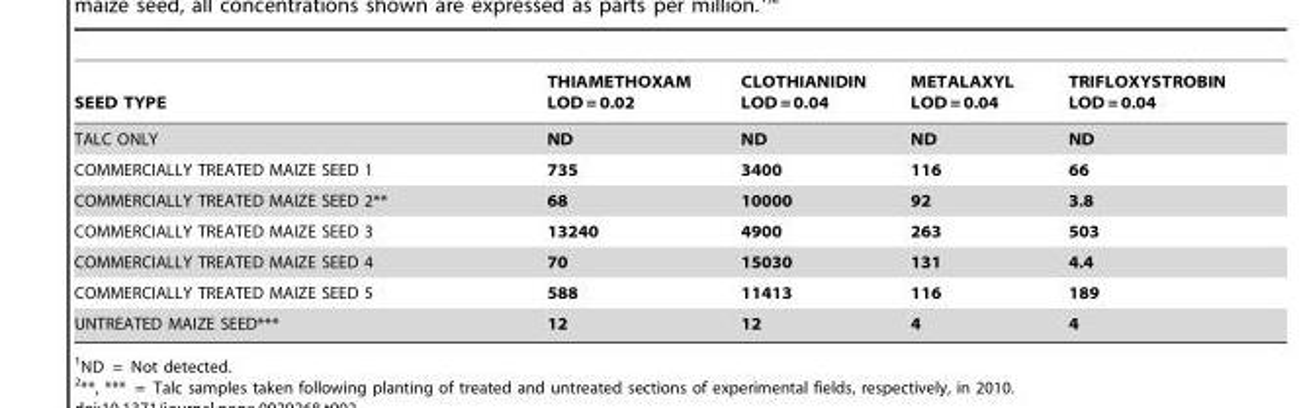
<table><thead><tr><td>SEED TYPE</td><td>THIAMETHOXAM LOD = 0.02</td><td>CLOTHIANIDIN LOD = 0.04</td><td>METALAXYL LOD = 0.04</td><td>TRIFLOXYSTROBIN LOD = 0.04</td></tr></thead><tbody><tr><td>TALC ONLY</td><td>ND</td><td>ND</td><td>ND</td><td>ND</td></tr><tr><td>COMMERCIALLY TREATED MAIZE SEED 1</td><td>735</td><td>3400</td><td>116</td><td>66</td></tr><tr><td>COMMERCIALLY TREATED MAIZE SEED 2**</td><td>68</td><td>10000</td><td>92</td><td>3.8</td></tr><tr><td>COMMERCIALLY TREATED MAIZE SEED 3</td><td>13240</td><td>4900</td><td>263</td><td>503</td></tr><tr><td>COMMERCIALLY TREATED MAIZE SEED 4</td><td>70</td><td>15030</td><td>131</td><td>4.4</td></tr><tr><td>COMMERCIALLY TREATED MAIZE SEED 5</td><td>588</td><td>11413</td><td>116</td><td>189</td></tr><tr><td>UNTREATED MAIZE SEED***</td><td>12</td><td>12</td><td>4</td><td>4</td></tr></tbody></table>